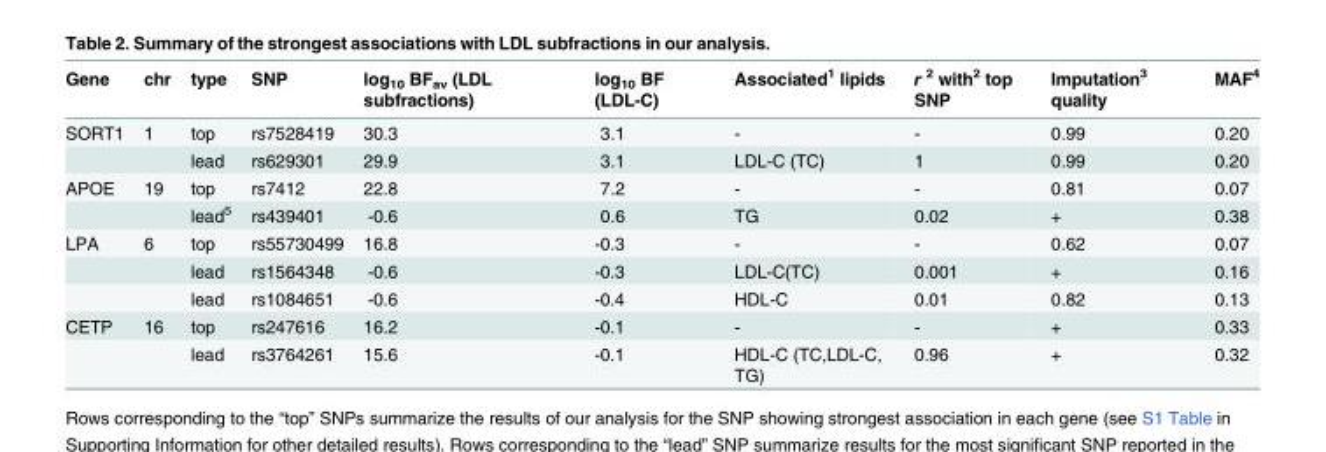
<table><thead><tr><td>Gene</td><td>chr</td><td>type</td><td>SNP</td><td>log<sub>10</sub> BF<sub>av</sub> (LDL subfractions)</td><td>log<sub>10</sub> BF (LDL-C)</td><td>Associated<sup>1</sup> lipids</td><td>r <sup>2</sup> with<sup>2</sup> top SNP</td><td>Imputation<sup>3</sup> quality</td><td>MAF<sup>4</sup></td></tr></thead><tbody><tr><td rowspan="2">SORT1</td><td>1</td><td>top</td><td>rs7528419</td><td>30.3</td><td>3.1</td><td>-</td><td>-</td><td>0.99</td><td>0.20</td></tr><tr><td></td><td>lead</td><td>rs629301</td><td>29.9</td><td>3.1</td><td>LDL-C (TC)</td><td>1</td><td>0.99</td><td>0.20</td></tr><tr><td rowspan="2">APOE</td><td>19</td><td>top</td><td>rs7412</td><td>22.8</td><td>7.2</td><td>-</td><td>-</td><td>0.81</td><td>0.07</td></tr><tr><td></td><td>lead<sup>5</sup></td><td>rs439401</td><td>-0.6</td><td>0.6</td><td>TG</td><td>0.02</td><td>+</td><td>0.38</td></tr><tr><td rowspan="3">LPA</td><td>6</td><td>top</td><td>rs55730499</td><td>16.8</td><td>-0.3</td><td>-</td><td>-</td><td>0.62</td><td>0.07</td></tr><tr><td></td><td>lead</td><td>rs1564348</td><td>-0.6</td><td>-0.3</td><td>LDL-C(TC)</td><td>0.001</td><td>+</td><td>0.16</td></tr><tr><td></td><td>lead</td><td>rs1084651</td><td>-0.6</td><td>-0.4</td><td>HDL-C</td><td>0.01</td><td>0.82</td><td>0.13</td></tr><tr><td rowspan="2">CETP</td><td>16</td><td>top</td><td>rs247616</td><td>16.2</td><td>-0.1</td><td>-</td><td>-</td><td>+</td><td>0.33</td></tr><tr><td></td><td>lead</td><td>rs3764261</td><td>15.6</td><td>-0.1</td><td>HDL-C (TC,LDL-C, TG)</td><td>0.96</td><td>+</td><td>0.32</td></tr></tbody></table>